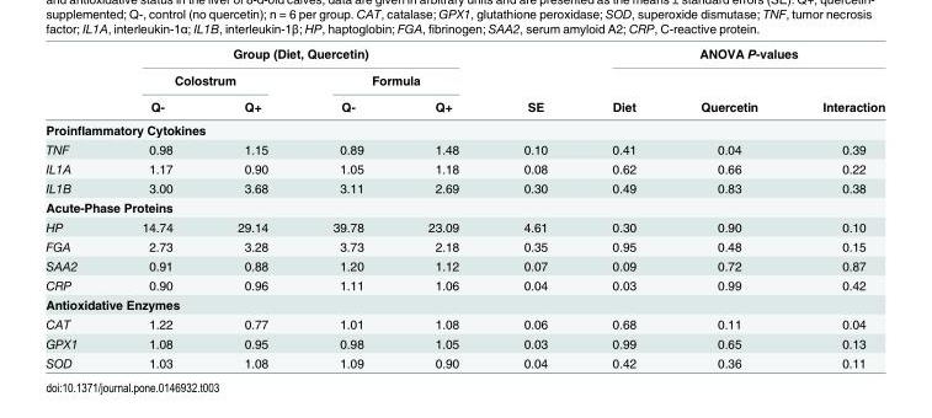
<table><thead><tr><td rowspan="3"></td><td colspan="4">Group (Diet, Quercetin)</td><td rowspan="3">SE</td><td colspan="3">ANOVA P-values</td></tr><tr><td colspan="2">Colostrum</td><td colspan="2">Formula</td><td rowspan="2">Diet</td><td rowspan="2">Quercetin</td><td rowspan="2">Interaction</td></tr><tr><td>Q-</td><td>Q+</td><td>Q-</td><td>Q+</td></tr></thead><tbody><tr><td colspan="9">Proinflammatory Cytokines</td></tr><tr><td>TNF</td><td>0.98</td><td>1.15</td><td>0.89</td><td>1.48</td><td>0.10</td><td>0.41</td><td>0.04</td><td>0.39</td></tr><tr><td>IL1A</td><td>1.17</td><td>0.90</td><td>1.05</td><td>1.18</td><td>0.08</td><td>0.62</td><td>0.66</td><td>0.22</td></tr><tr><td>IL1B</td><td>3.00</td><td>3.68</td><td>3.11</td><td>2.69</td><td>0.30</td><td>0.49</td><td>0.83</td><td>0.38</td></tr><tr><td colspan="9">Acute-Phase Proteins</td></tr><tr><td>HP</td><td>14.74</td><td>29.14</td><td>39.78</td><td>23.09</td><td>4.61</td><td>0.30</td><td>0.90</td><td>0.10</td></tr><tr><td>FGA</td><td>2.73</td><td>3.28</td><td>3.73</td><td>2.18</td><td>0.35</td><td>0.95</td><td>0.48</td><td>0.15</td></tr><tr><td>SAA2</td><td>0.91</td><td>0.88</td><td>1.20</td><td>1.12</td><td>0.07</td><td>0.09</td><td>0.72</td><td>0.87</td></tr><tr><td>CRP</td><td>0.90</td><td>0.96</td><td>1.11</td><td>1.06</td><td>0.04</td><td>0.03</td><td>0.99</td><td>0.42</td></tr><tr><td colspan="9">Antioxidative Enzymes</td></tr><tr><td>CAT</td><td>1.22</td><td>0.77</td><td>1.01</td><td>1.08</td><td>0.06</td><td>0.68</td><td>0.11</td><td>0.04</td></tr><tr><td>GPX1</td><td>1.08</td><td>0.95</td><td>0.98</td><td>1.05</td><td>0.03</td><td>0.99</td><td>0.65</td><td>0.13</td></tr><tr><td>SOD</td><td>1.03</td><td>1.08</td><td>1.09</td><td>0.90</td><td>0.04</td><td>0.42</td><td>0.36</td><td>0.11</td></tr></tbody></table>